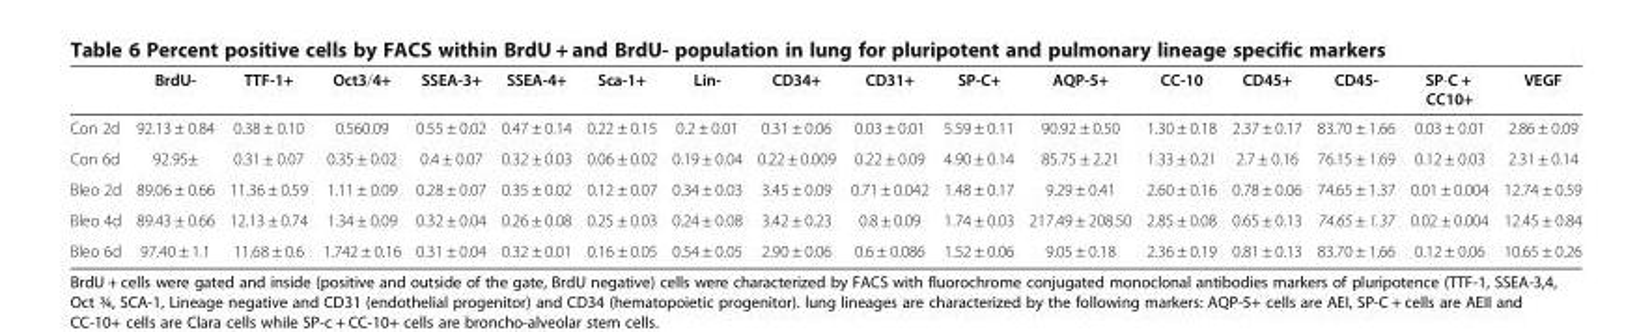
<table><thead><tr><td></td><td>BrdU-</td><td>TTF-1+</td><td>Oct3/4+</td><td>SSEA-3+</td><td>SSEA-4+</td><td>Sca-1+</td><td>Lin-</td><td>CD34+</td><td>CD31+</td><td>SP-C+</td><td>AQP-5+</td><td>CC-10</td><td>CD45+</td><td>CD45-</td><td>SP-C + CC10+</td><td>VEGF</td></tr></thead><tbody><tr><td>Con 2d</td><td>92.13 ± 0.84</td><td>0.38 ± 0.10</td><td>0.560.09</td><td>0.55 ± 0.02</td><td>0.47 ± 0.14</td><td>0.22 ± 0.15</td><td>0.2 ± 0.01</td><td>0.31 ± 0.06</td><td>0.03 ± 0.01</td><td>5.59 ± 0.11</td><td>90.92 ± 0.50</td><td>1.30 ± 0.18</td><td>2.37 ± 0.17</td><td>83.70 ± 1.66</td><td>0.03 ± 0.01</td><td>2.86 ± 0.09</td></tr><tr><td>Con 6d</td><td>92.95±</td><td>0.31 ± 0.07</td><td>0.35 ± 0.02</td><td>0.4 ± 0.07</td><td>0.32 ± 0.03</td><td>0.06 ± 0.02</td><td>0.19 ± 0.04</td><td>0.22 ± 0.009</td><td>0.22 ± 0.09</td><td>4.90 ± 0.14</td><td>85.75 ± 2.21</td><td>1.33 ± 0.21</td><td>2.7 ± 0.16</td><td>76.15 ± 1.69</td><td>0.12 ± 0.03</td><td>2.31 ± 0.14</td></tr><tr><td>Bleo 2d</td><td>89.06 ± 0.66</td><td>11.36 ± 0.59</td><td>1.11 ± 0.09</td><td>0.28 ± 0.07</td><td>0.35 ± 0.02</td><td>0.12 ± 0.07</td><td>0.34 ± 0.03</td><td>3.45 ± 0.09</td><td>0.71 ± 0.042</td><td>1.48 ± 0.17</td><td>9.29 ± 0.41</td><td>2.60 ± 0.16</td><td>0.78 ± 0.06</td><td>74.65 ± 1.37</td><td>0.01 ± 0.004</td><td>12.74 ± 0.59</td></tr><tr><td>Bleo 4d</td><td>89.43 ± 0.66</td><td>12.13 ± 0.74</td><td>1.34 ± 0.09</td><td>0.32 ± 0.04</td><td>0.26 ± 0.08</td><td>0.25 ± 0.03</td><td>0.24 ± 0.08</td><td>3.42 ± 0.23</td><td>0.8 ± 0.09</td><td>1.74 ± 0.03</td><td>217.49 ± 208.50</td><td>2.85 ± 0.08</td><td>0.65 ± 0.13</td><td>74.65 ± 1.37</td><td>0.02 ± 0.004</td><td>12.45 ± 0.84</td></tr><tr><td>Bleo 6d</td><td>97.40 ± 1.1</td><td>11.68 ± 0.6</td><td>1.742 ± 0.16</td><td>0.31 ± 0.04</td><td>0.32 ± 0.01</td><td>0.16 ± 0.05</td><td>0.54 ± 0.05</td><td>2.90 ± 0.06</td><td>0.6 ± 0.086</td><td>1.52 ± 0.06</td><td>9.05 ± 0.18</td><td>2.36 ± 0.19</td><td>0.81 ± 0.13</td><td>83.70 ± 1.66</td><td>0.12 ± 0.06</td><td>10.65 ± 0.26</td></tr></tbody></table>